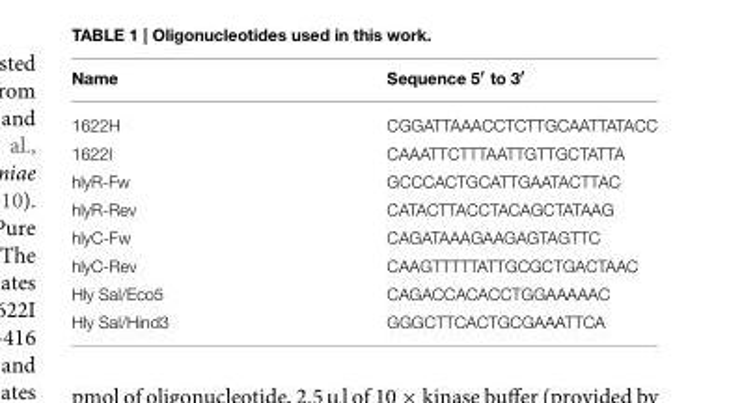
<table><thead><tr><td>Name</td><td>Sequence 5′ to 3′</td></tr></thead><tbody><tr><td>1622H</td><td>CGGATTAAACCTCTTGCAATTATACC</td></tr><tr><td>1622I</td><td>CAAATTCTTTAATTGTTGCTATTA</td></tr><tr><td>hlyR-Fw</td><td>GCCCACTGCATTGAATACTTAC</td></tr><tr><td>hlyR-Rev</td><td>CATACTTACCTACAGCTATAAG</td></tr><tr><td>hlyC-Fw</td><td>CAGATAAAGAAGAGTAGTTC</td></tr><tr><td>hlyC-Rev</td><td>CAAGTTTTTATTGCGCTGACTAAC</td></tr><tr><td>Hly Sal/Eco5</td><td>CAGACCACACCTGGAAAAAC</td></tr><tr><td>Hly Sal/Hind3</td><td>GGGCTTCACTGCGAAATTCA</td></tr></tbody></table>